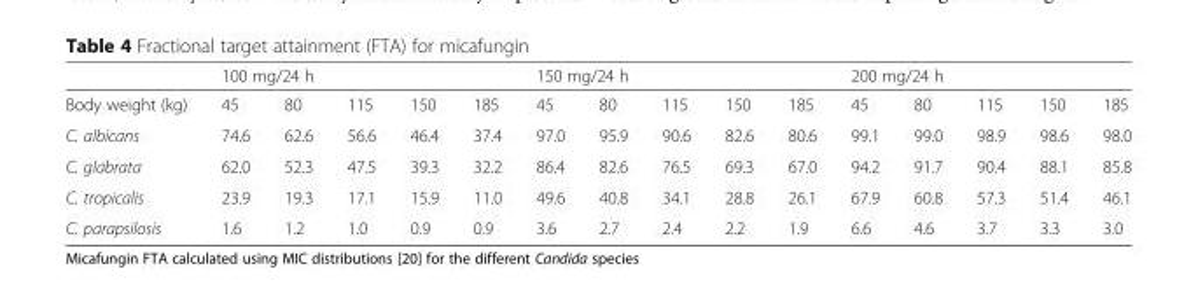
<table><thead><tr><td rowspan="2">Body weight (kg)</td><td colspan="5">100 mg/24 h</td><td colspan="5">150 mg/24 h</td><td colspan="5">200 mg/24 h</td></tr><tr><td>45</td><td>80</td><td>115</td><td>150</td><td>185</td><td>45</td><td>80</td><td>115</td><td>150</td><td>185</td><td>45</td><td>80</td><td>115</td><td>150</td><td>185</td></tr></thead><tbody><tr><td>C. albicans</td><td>74.6</td><td>62.6</td><td>56.6</td><td>46.4</td><td>37.4</td><td>97.0</td><td>95.9</td><td>90.6</td><td>82.6</td><td>80.6</td><td>99.1</td><td>99.0</td><td>98.9</td><td>98.6</td><td>98.0</td></tr><tr><td>C. glabrata</td><td>62.0</td><td>52.3</td><td>47.5</td><td>39.3</td><td>32.2</td><td>86.4</td><td>82.6</td><td>76.5</td><td>69.3</td><td>67.0</td><td>94.2</td><td>91.7</td><td>90.4</td><td>88.1</td><td>85.8</td></tr><tr><td>C. tropicalis</td><td>23.9</td><td>19.3</td><td>17.1</td><td>15.9</td><td>11.0</td><td>49.6</td><td>40.8</td><td>34.1</td><td>28.8</td><td>26.1</td><td>67.9</td><td>60.8</td><td>57.3</td><td>51.4</td><td>46.1</td></tr><tr><td>C. parapsilosis</td><td>1.6</td><td>1.2</td><td>1.0</td><td>0.9</td><td>0.9</td><td>3.6</td><td>2.7</td><td>2.4</td><td>2.2</td><td>1.9</td><td>6.6</td><td>4.6</td><td>3.7</td><td>3.3</td><td>3.0</td></tr></tbody></table>